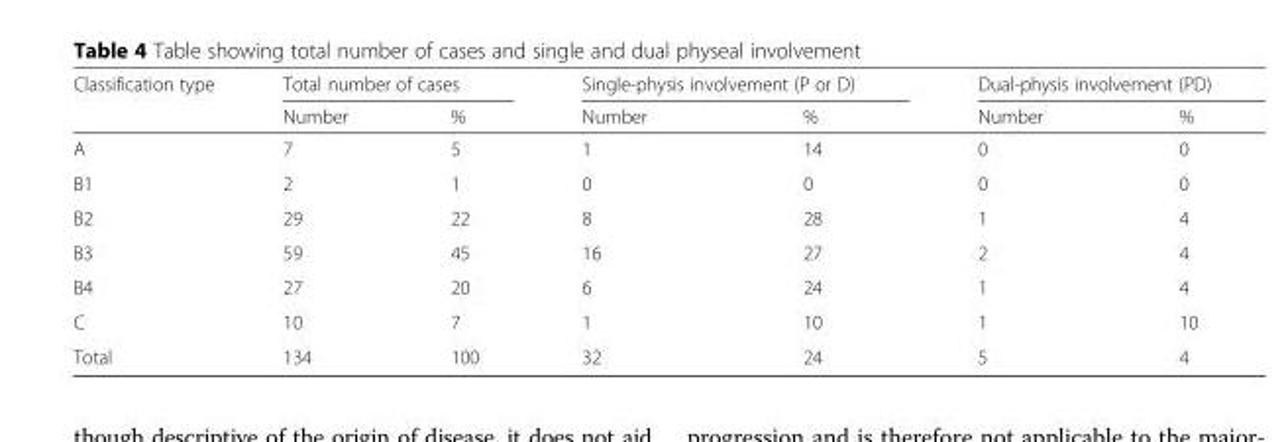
<table><thead><tr><td rowspan="2">Classification type</td><td colspan="2">Total number of cases</td><td colspan="2">Single-physis involvement (P or D)</td><td colspan="2">Dual-physis involvement (PD)</td></tr><tr><td>Number</td><td>%</td><td>Number</td><td>%</td><td>Number</td><td>%</td></tr></thead><tbody><tr><td>A</td><td>7</td><td>5</td><td>1</td><td>14</td><td>0</td><td>0</td></tr><tr><td>B1</td><td>2</td><td>1</td><td>0</td><td>0</td><td>0</td><td>0</td></tr><tr><td>B2</td><td>29</td><td>22</td><td>8</td><td>28</td><td>1</td><td>4</td></tr><tr><td>B3</td><td>59</td><td>45</td><td>16</td><td>27</td><td>2</td><td>4</td></tr><tr><td>B4</td><td>27</td><td>20</td><td>6</td><td>24</td><td>1</td><td>4</td></tr><tr><td>C</td><td>10</td><td>7</td><td>1</td><td>10</td><td>1</td><td>10</td></tr><tr><td>Total</td><td>134</td><td>100</td><td>32</td><td>24</td><td>5</td><td>4</td></tr></tbody></table>